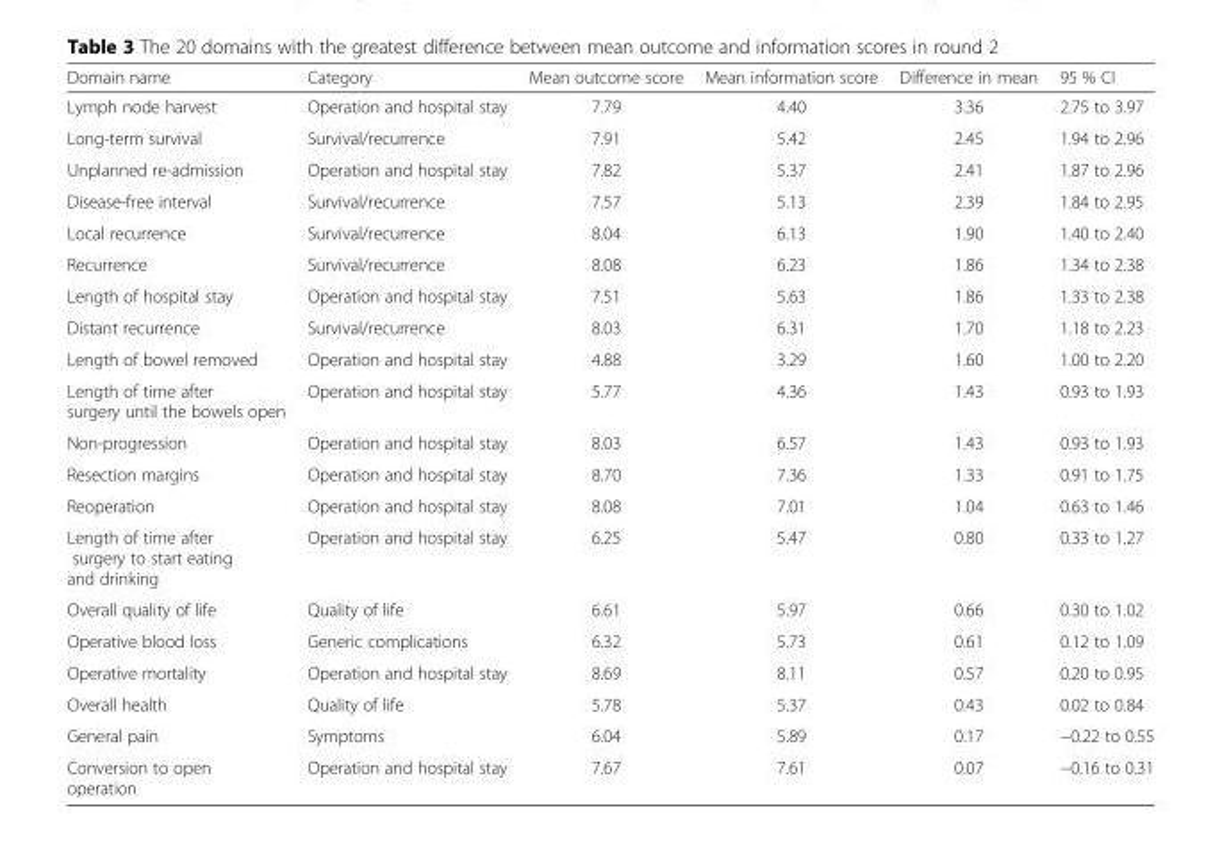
<table><thead><tr><td>Domain name</td><td>Category</td><td>Mean outcome score</td><td>Mean information score</td><td>Difference in mean</td><td>95 % CI</td></tr></thead><tbody><tr><td>Lymph node harvest</td><td>Operation and hospital stay</td><td>7.79</td><td>4.40</td><td>3.36</td><td>2.75 to 3.97</td></tr><tr><td>Long-term survival</td><td>Survival/recurrence</td><td>7.91</td><td>5.42</td><td>2.45</td><td>1.94 to 2.96</td></tr><tr><td>Unplanned re-admission</td><td>Operation and hospital stay</td><td>7.82</td><td>5.37</td><td>2.41</td><td>1.87 to 2.96</td></tr><tr><td>Disease-free interval</td><td>Survival/recurrence</td><td>7.57</td><td>5.13</td><td>2.39</td><td>1.84 to 2.95</td></tr><tr><td>Local recurrence</td><td>Survival/recurrence</td><td>8.04</td><td>6.13</td><td>1.90</td><td>1.40 to 2.40</td></tr><tr><td>Recurrence</td><td>Survival/recurrence</td><td>8.08</td><td>6.23</td><td>1.86</td><td>1.34 to 2.38</td></tr><tr><td>Length of hospital stay</td><td>Operation and hospital stay</td><td>7.51</td><td>5.63</td><td>1.86</td><td>1.33 to 2.38</td></tr><tr><td>Distant recurrence</td><td>Survival/recurrence</td><td>8.03</td><td>6.31</td><td>1.70</td><td>1.18 to 2.23</td></tr><tr><td>Length of bowel removed</td><td>Operation and hospital stay</td><td>4.88</td><td>3.29</td><td>1.60</td><td>1.00 to 2.20</td></tr><tr><td>Length of time after surgery until the bowels open</td><td>Operation and hospital stay</td><td>5.77</td><td>4.36</td><td>1.43</td><td>0.93 to 1.93</td></tr><tr><td>Non-progression</td><td>Operation and hospital stay</td><td>8.03</td><td>6.57</td><td>1.43</td><td>0.93 to 1.93</td></tr><tr><td>Resection margins</td><td>Operation and hospital stay</td><td>8.70</td><td>7.36</td><td>1.33</td><td>0.91 to 1.75</td></tr><tr><td>Reoperation</td><td>Operation and hospital stay</td><td>8.08</td><td>7.01</td><td>1.04</td><td>0.63 to 1.46</td></tr><tr><td>Length of time after surgery to start eating and drinking</td><td>Operation and hospital stay</td><td>6.25</td><td>5.47</td><td>0.80</td><td>0.33 to 1.27</td></tr><tr><td>Overall quality of life</td><td>Quality of life</td><td>6.61</td><td>5.97</td><td>0.66</td><td>0.30 to 1.02</td></tr><tr><td>Operative blood loss</td><td>Generic complications</td><td>6.32</td><td>5.73</td><td>0.61</td><td>0.12 to 1.09</td></tr><tr><td>Operative mortality</td><td>Operation and hospital stay</td><td>8.69</td><td>8.11</td><td>0.57</td><td>0.20 to 0.95</td></tr><tr><td>Overall health</td><td>Quality of life</td><td>5.78</td><td>5.37</td><td>0.43</td><td>0.02 to 0.84</td></tr><tr><td>General pain</td><td>Symptoms</td><td>6.04</td><td>5.89</td><td>0.17</td><td>−0.22 to 0.55</td></tr><tr><td>Conversion to open operation</td><td>Operation and hospital stay</td><td>7.67</td><td>7.61</td><td>0.07</td><td>−0.16 to 0.31</td></tr></tbody></table>